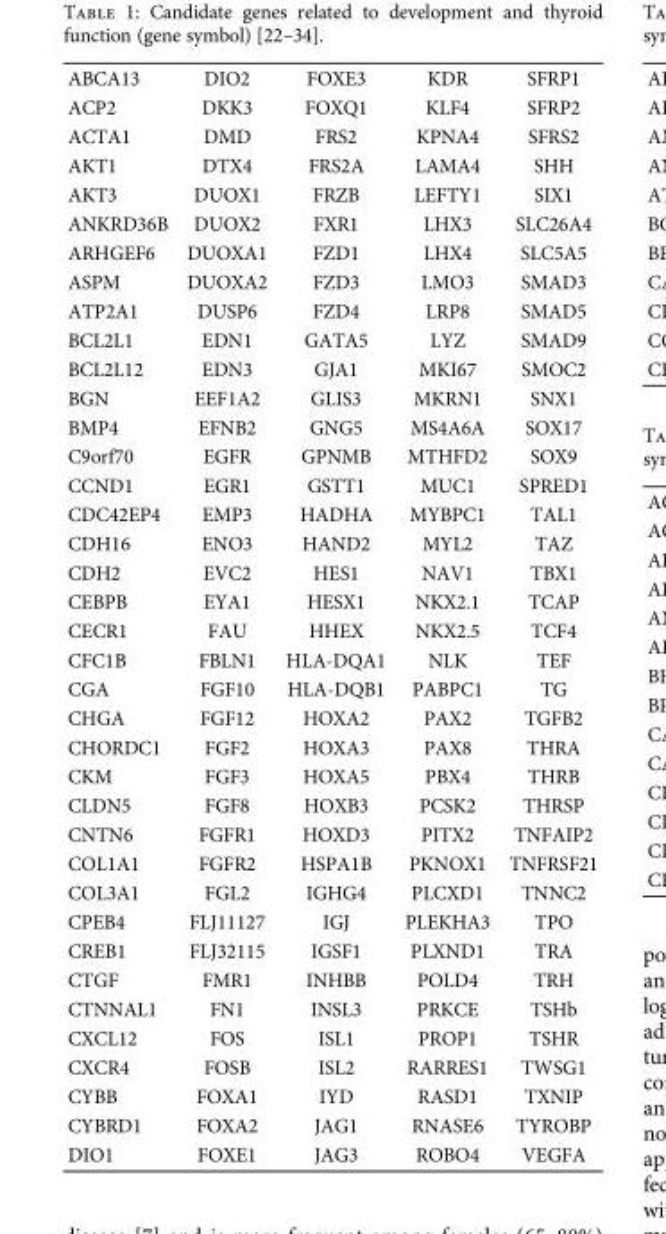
<table><tbody><tr><td>ABCA13</td><td>DIO2</td><td>FOXE3</td><td>KDR</td><td>SFRP1</td></tr><tr><td>ACP2</td><td>DKK3</td><td>FOXQ1</td><td>KLF4</td><td>SFRP2</td></tr><tr><td>ACTA1</td><td>DMD</td><td>FRS2</td><td>KPNA4</td><td>SFRS2</td></tr><tr><td>AKT1</td><td>DTX4</td><td>FRS2A</td><td>LAMA4</td><td>SHH</td></tr><tr><td>AKT3</td><td>DUOX1</td><td>FRZB</td><td>LEFTY1</td><td>SIX1</td></tr><tr><td>ANKRD36B</td><td>DUOX2</td><td>FXR1</td><td>LHX3</td><td>SLC26A4</td></tr><tr><td>ARHGEF6</td><td>DUOXA1</td><td>FZD1</td><td>LHX4</td><td>SLC5A5</td></tr><tr><td>ASPM</td><td>DUOXA2</td><td>FZD3</td><td>LMO3</td><td>SMAD3</td></tr><tr><td>ATP2A1</td><td>DUSP6</td><td>FZD4</td><td>LRP8</td><td>SMAD5</td></tr><tr><td>BCL2L1</td><td>EDN1</td><td>GATA5</td><td>LYZ</td><td>SMAD9</td></tr><tr><td>BCL2L12</td><td>EDN3</td><td>GJA1</td><td>MKI67</td><td>SMOC2</td></tr><tr><td>BGN</td><td>EEF1A2</td><td>GLIS3</td><td>MKRN1</td><td>SNX1</td></tr><tr><td>BMP4</td><td>EFNB2</td><td>GNG5</td><td>MS4A6A</td><td>SOX17</td></tr><tr><td>C9orf70</td><td>EGFR</td><td>GPNMB</td><td>MTHFD2</td><td>SOX9</td></tr><tr><td>CCND1</td><td>EGR1</td><td>GSTT1</td><td>MUC1</td><td>SPRED1</td></tr><tr><td>CDC42EP4</td><td>EMP3</td><td>HADHA</td><td>MYBPC1</td><td>TAL1</td></tr><tr><td>CDH16</td><td>ENO3</td><td>HAND2</td><td>MYL2</td><td>TAZ</td></tr><tr><td>CDH2</td><td>EVC2</td><td>HES1</td><td>NAV1</td><td>TBX1</td></tr><tr><td>CEBPB</td><td>EYA1</td><td>HESX1</td><td>NKX2.1</td><td>TCAP</td></tr><tr><td>CECR1</td><td>FAU</td><td>HHEX</td><td>NKX2.5</td><td>TCF4</td></tr><tr><td>CFC1B</td><td>FBLN1</td><td>HLA-DQA1</td><td>NLK</td><td>TEF</td></tr><tr><td>CGA</td><td>FGF10</td><td>HLA-DQB1</td><td>PABPC1</td><td>TG</td></tr><tr><td>CHGA</td><td>FGF12</td><td>HOXA2</td><td>PAX2</td><td>TGFB2</td></tr><tr><td>CHORDC1</td><td>FGF2</td><td>HOXA3</td><td>PAX8</td><td>THRA</td></tr><tr><td>CKM</td><td>FGF3</td><td>HOXA5</td><td>PBX4</td><td>THRB</td></tr><tr><td>CLDN5</td><td>FGF8</td><td>HOXB3</td><td>PCSK2</td><td>THRSP</td></tr><tr><td>CNTN6</td><td>FGFR1</td><td>HOXD3</td><td>PITX2</td><td>TNFAIP2</td></tr><tr><td>COL1A1</td><td>FGFR2</td><td>HSPA1B</td><td>PKNOX1</td><td>TNFRSF21</td></tr><tr><td>COL3A1</td><td>FGL2</td><td>IGHG4</td><td>PLCXD1</td><td>TNNC2</td></tr><tr><td>CPEB4</td><td>FLJ11127</td><td>IGJ</td><td>PLEKHA3</td><td>TPO</td></tr><tr><td>CREB1</td><td>FLJ32115</td><td>IGSF1</td><td>PLXND1</td><td>TRA</td></tr><tr><td>CTGF</td><td>FMR1</td><td>INHBB</td><td>POLD4</td><td>TRH</td></tr><tr><td>CTNNAL1</td><td>FN1</td><td>INSL3</td><td>PRKCE</td><td>TSHb</td></tr><tr><td>CXCL12</td><td>FOS</td><td>ISL1</td><td>PROP1</td><td>TSHR</td></tr><tr><td>CXCR4</td><td>FOSB</td><td>ISL2</td><td>RARRES1</td><td>TWSG1</td></tr><tr><td>CYBB</td><td>FOXA1</td><td>IYD</td><td>RASD1</td><td>TXNIP</td></tr><tr><td>CYBRD1</td><td>FOXA2</td><td>JAG1</td><td>RNASE6</td><td>TYROBP</td></tr><tr><td>DIO1</td><td>FOXE1</td><td>JAG3</td><td>ROBO4</td><td>VEGFA</td></tr></tbody></table>